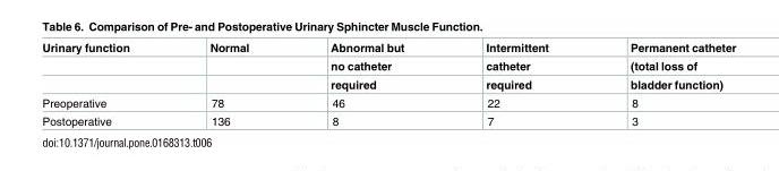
<table><thead><tr><td rowspan="3">Urinary function</td><td rowspan="3">Normal</td><td rowspan="3">Abnormal but no catheter required</td><td rowspan="3">Intermittent catheter required</td><td rowspan="3">Permanent catheter (total loss of bladder function)</td></tr><tr></tr><tr></tr></thead><tbody><tr><td>Preoperative</td><td>78</td><td>46</td><td>22</td><td>8</td></tr><tr><td>Postoperative</td><td>136</td><td>8</td><td>7</td><td>3</td></tr></tbody></table>